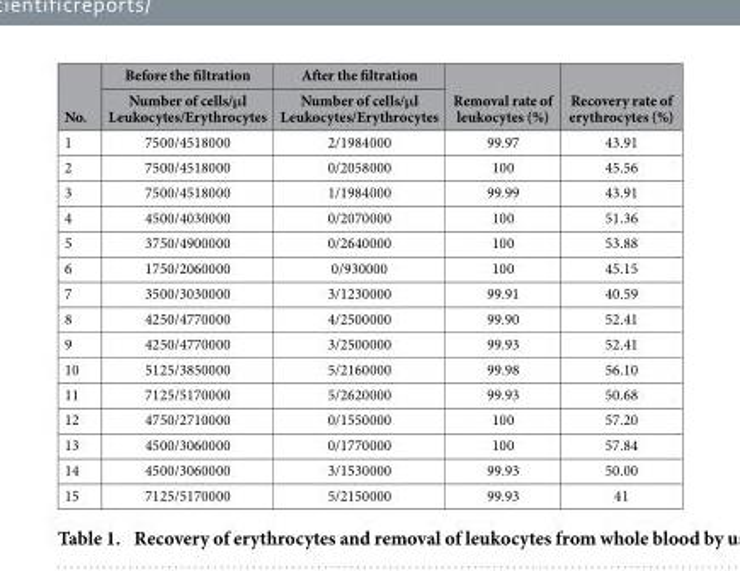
<table><thead><tr><td rowspan="2">No.</td><td rowspan="2">Before the filtration Number of cells/μl Leukocytes/Erythrocytes</td><td rowspan="2">After the filtration Number of cells/μl Leukocytes/Erythrocytes</td><td rowspan="2">Removal rate of leukocytes (%)</td><td rowspan="2">Recovery rate of erythrocytes (%)</td></tr><tr></tr></thead><tbody><tr><td>1</td><td>7500/4518000</td><td>2/1984000</td><td>99.97</td><td>43.91</td></tr><tr><td>2</td><td>7500/4518000</td><td>0/2058000</td><td>100</td><td>45.56</td></tr><tr><td>3</td><td>7500/4518000</td><td>1/1984000</td><td>99.99</td><td>43.91</td></tr><tr><td>4</td><td>4500/4030000</td><td>0/2070000</td><td>100</td><td>51.36</td></tr><tr><td>5</td><td>3750/4900000</td><td>0/2640000</td><td>100</td><td>53.88</td></tr><tr><td>6</td><td>1750/2060000</td><td>0/930000</td><td>100</td><td>45.15</td></tr><tr><td>7</td><td>3500/3030000</td><td>3/1230000</td><td>99.91</td><td>40.59</td></tr><tr><td>8</td><td>4250/4770000</td><td>4/2500000</td><td>99.90</td><td>52.41</td></tr><tr><td>9</td><td>4250/4770000</td><td>3/2500000</td><td>99.93</td><td>52.41</td></tr><tr><td>10</td><td>5125/3850000</td><td>5/2160000</td><td>99.98</td><td>56.10</td></tr><tr><td>11</td><td>7125/5170000</td><td>5/2620000</td><td>99.93</td><td>50.68</td></tr><tr><td>12</td><td>4750/2710000</td><td>0/1550000</td><td>100</td><td>57.20</td></tr><tr><td>13</td><td>4500/3060000</td><td>0/1770000</td><td>100</td><td>57.84</td></tr><tr><td>14</td><td>4500/3060000</td><td>3/1530000</td><td>99.93</td><td>50.00</td></tr><tr><td>15</td><td>7125/5170000</td><td>5/2150000</td><td>99.93</td><td>41</td></tr></tbody></table>